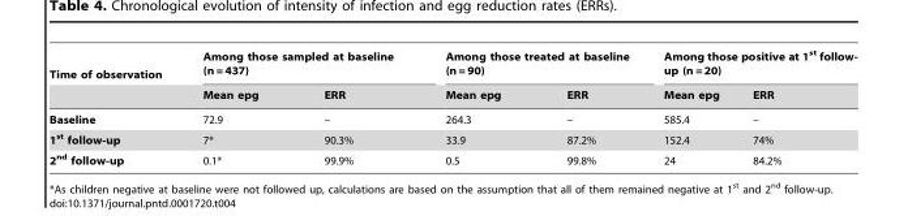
<table><thead><tr><td rowspan="2">Time of observation</td><td colspan="2">Among those sampled at baseline (n = 437)</td><td colspan="2">Among those treated at baseline (n = 90)</td><td colspan="2">Among those positive at 1<sup>st</sup> follow- up (n = 20)</td></tr><tr><td>Mean epg</td><td>ERR</td><td>Mean epg</td><td>ERR</td><td>Mean epg</td><td>ERR</td></tr></thead><tbody><tr><td>Baseline</td><td>72.9</td><td>–</td><td>264.3</td><td>–</td><td>585.4</td><td>–</td></tr><tr><td>1<sup>st</sup> follow-up</td><td>7*</td><td>90.3%</td><td>33.9</td><td>87.2%</td><td>152.4</td><td>74%</td></tr><tr><td>2<sup>nd</sup> follow-up</td><td>0.1*</td><td>99.9%</td><td>0.5</td><td>99.8%</td><td>24</td><td>84.2%</td></tr></tbody></table>